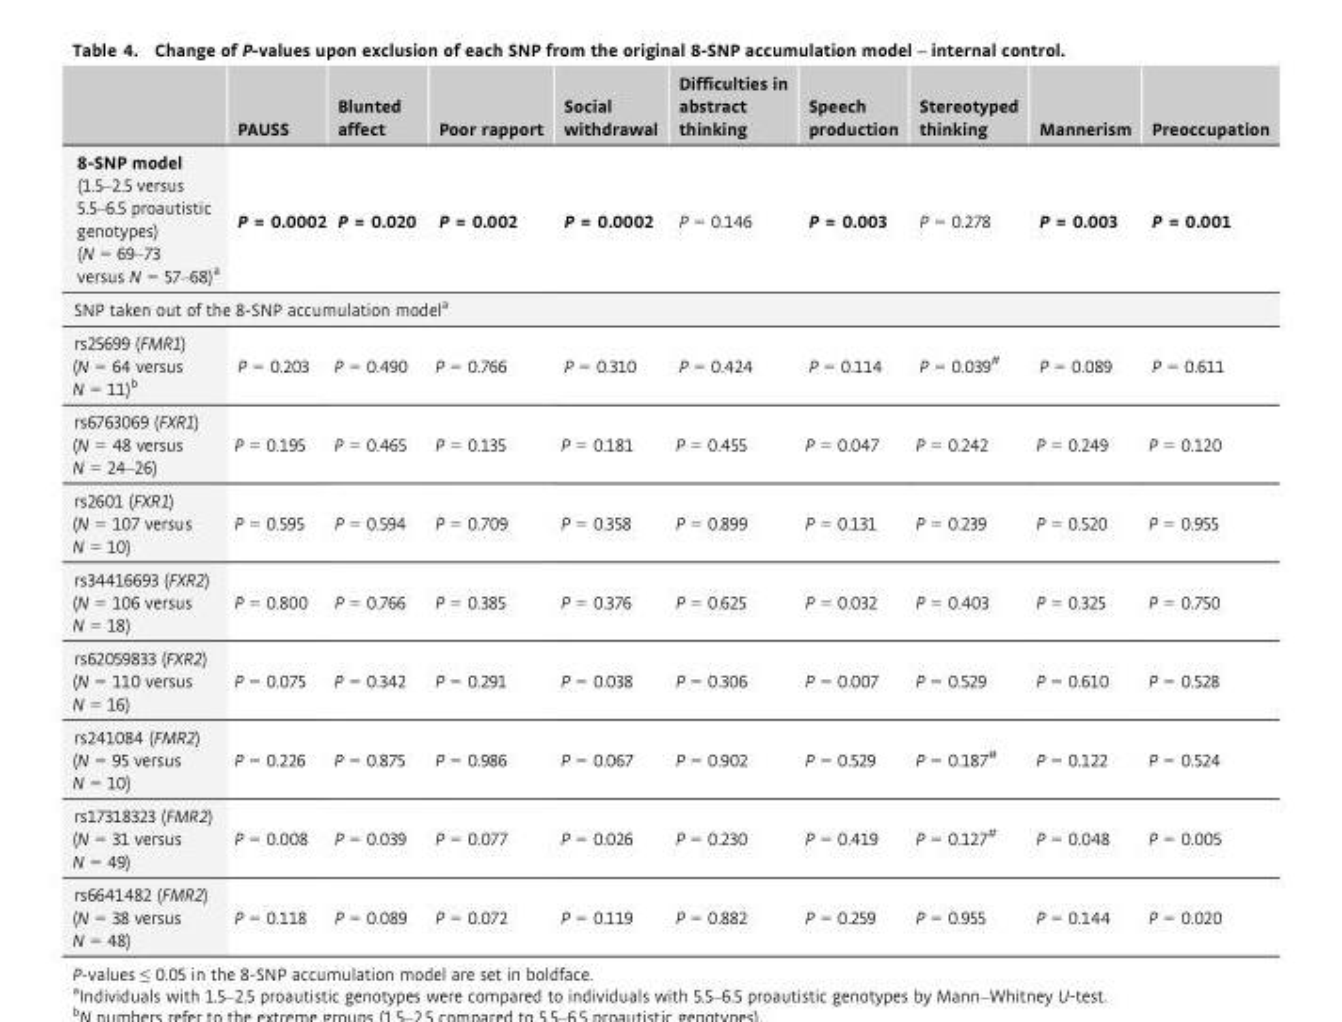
<table><thead><tr><td></td><td>PAUSS</td><td>Blunted affect</td><td>Poor rapport</td><td>Social withdrawal</td><td>Difficulties in abstract thinking</td><td>Speech production</td><td>Stereotyped thinking</td><td>Mannerism</td><td>Preoccupation</td></tr></thead><tbody><tr><td>8-SNP model (1.5–2.5 versus 5.5–6.5 proautistic genotypes) (N = 69–73 versus N = 57–68)<sup>a</sup></td><td>P = 0.0002</td><td>P = 0.020</td><td>P = 0.002</td><td>P = 0.0002</td><td>P = 0.146</td><td>P = 0.003</td><td>P = 0.278</td><td>P = 0.003</td><td>P = 0.001</td></tr><tr><td colspan="10">SNP taken out of the 8-SNP accumulation model<sup>a</sup></td></tr><tr><td>rs25699 (FMR1) (N = 64 versus N = 11)<sup>b</sup></td><td>P = 0.203</td><td>P = 0.490</td><td>P = 0.766</td><td>P = 0.310</td><td>P = 0.424</td><td>P = 0.114</td><td>P = 0.039#</td><td>P = 0.089</td><td>P = 0.611</td></tr><tr><td>rs6763069 (FXR1) (N = 48 versus N = 24–26)</td><td>P = 0.195</td><td>P = 0.465</td><td>P = 0.135</td><td>P = 0.181</td><td>P = 0.455</td><td>P = 0.047</td><td>P = 0.242</td><td>P = 0.249</td><td>P = 0.120</td></tr><tr><td>rs2601 (FXR1) (N = 107 versus N = 10)</td><td>P = 0.595</td><td>P = 0.594</td><td>P = 0.709</td><td>P = 0.358</td><td>P = 0.899</td><td>P = 0.131</td><td>P = 0.239</td><td>P = 0.520</td><td>P = 0.955</td></tr><tr><td>rs34416693 (FXR2) (N = 106 versus N = 18)</td><td>P = 0.800</td><td>P = 0.766</td><td>P = 0.385</td><td>P = 0.376</td><td>P = 0.625</td><td>P = 0.032</td><td>P = 0.403</td><td>P = 0.325</td><td>P = 0.750</td></tr><tr><td>rs62059833 (FXR2) (N = 110 versus N = 16)</td><td>P = 0.075</td><td>P = 0.342</td><td>P = 0.291</td><td>P = 0.038</td><td>P = 0.306</td><td>P = 0.007</td><td>P = 0.529</td><td>P = 0.610</td><td>P = 0.528</td></tr><tr><td>rs241084 (FMR2) (N = 95 versus N = 10)</td><td>P = 0.226</td><td>P = 0.875</td><td>P = 0.986</td><td>P = 0.067</td><td>P = 0.902</td><td>P = 0.529</td><td>P = 0.187#</td><td>P = 0.122</td><td>P = 0.524</td></tr><tr><td>rs17318323 (FMR2) (N = 31 versus N = 49)</td><td>P = 0.008</td><td>P = 0.039</td><td>P = 0.077</td><td>P = 0.026</td><td>P = 0.230</td><td>P = 0.419</td><td>P = 0.127#</td><td>P = 0.048</td><td>P = 0.005</td></tr><tr><td>rs6641482 (FMR2) (N = 38 versus N = 48)</td><td>P = 0.118</td><td>P = 0.089</td><td>P = 0.072</td><td>P = 0.119</td><td>P = 0.882</td><td>P = 0.259</td><td>P = 0.955</td><td>P = 0.144</td><td>P = 0.020</td></tr></tbody></table>